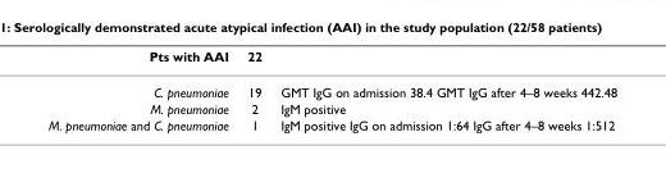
<table><thead><tr><td>Pts with AAI</td><td>22</td><td></td></tr></thead><tbody><tr><td>C. pneumoniae</td><td>19</td><td>GMT IgG on admission 38.4 GMT IgG after 4–8 weeks 442.48</td></tr><tr><td>M. pneumoniae</td><td>2</td><td>IgM positive</td></tr><tr><td>M. pneumoniae and C. pneumoniae</td><td>1</td><td>IgM positive IgG on admission 1:64 IgG after 4–8 weeks 1:512</td></tr></tbody></table>